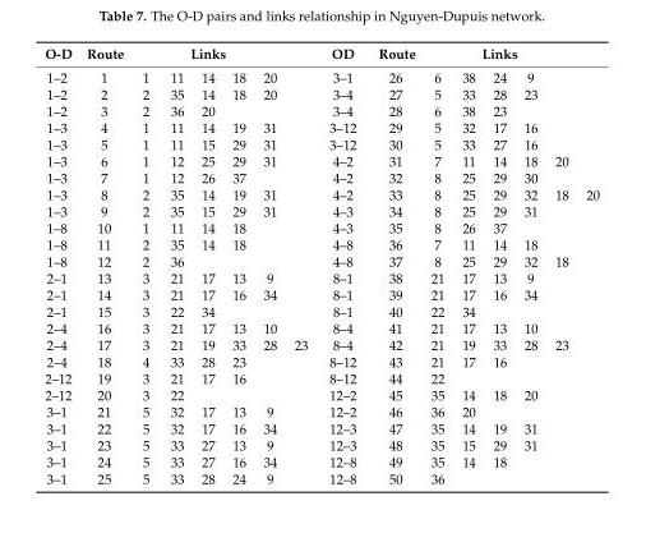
<table><thead><tr><td rowspan="2">O-D 1–2</td><td rowspan="2">Route 1</td><td colspan="5">Links</td><td rowspan="2"></td><td rowspan="2">OD 3–1</td><td rowspan="2">Route 26</td><td colspan="5">Links</td><td rowspan="2"></td></tr><tr><td>1</td><td>11</td><td>14</td><td>18</td><td>20</td><td>6</td><td>38</td><td>24</td><td>9</td><td></td></tr></thead><tbody><tr><td>1–2</td><td>2</td><td>2</td><td>35</td><td>14</td><td>18</td><td>20</td><td></td><td>3–4</td><td>27</td><td>5</td><td>33</td><td>28</td><td>23</td><td></td><td></td></tr><tr><td>1–2</td><td>3</td><td>2</td><td>36</td><td>20</td><td></td><td></td><td></td><td>3–4</td><td>28</td><td>6</td><td>38</td><td>23</td><td></td><td></td><td></td></tr><tr><td>1–3</td><td>4</td><td>1</td><td>11</td><td>14</td><td>19</td><td>31</td><td></td><td>3–12</td><td>29</td><td>5</td><td>32</td><td>17</td><td>16</td><td></td><td></td></tr><tr><td>1–3</td><td>5</td><td>1</td><td>11</td><td>15</td><td>29</td><td>31</td><td></td><td>3–12</td><td>30</td><td>5</td><td>33</td><td>27</td><td>16</td><td></td><td></td></tr><tr><td>1–3</td><td>6</td><td>1</td><td>12</td><td>25</td><td>29</td><td>31</td><td></td><td>4–2</td><td>31</td><td>7</td><td>11</td><td>14</td><td>18</td><td>20</td><td></td></tr><tr><td>1–3</td><td>7</td><td>1</td><td>12</td><td>26</td><td>37</td><td></td><td></td><td>4–2</td><td>32</td><td>8</td><td>25</td><td>29</td><td>30</td><td></td><td></td></tr><tr><td>1–3</td><td>8</td><td>2</td><td>35</td><td>14</td><td>19</td><td>31</td><td></td><td>4–2</td><td>33</td><td>8</td><td>25</td><td>29</td><td>32</td><td>18</td><td>20</td></tr><tr><td>1–3</td><td>9</td><td>2</td><td>35</td><td>15</td><td>29</td><td>31</td><td></td><td>4–3</td><td>34</td><td>8</td><td>25</td><td>29</td><td>31</td><td></td><td></td></tr><tr><td>1–8</td><td>10</td><td>1</td><td>11</td><td>14</td><td>18</td><td></td><td></td><td>4–3</td><td>35</td><td>8</td><td>26</td><td>37</td><td></td><td></td><td></td></tr><tr><td>1–8</td><td>11</td><td>2</td><td>35</td><td>14</td><td>18</td><td></td><td></td><td>4–8</td><td>36</td><td>7</td><td>11</td><td>14</td><td>18</td><td></td><td></td></tr><tr><td>1–8</td><td>12</td><td>2</td><td>36</td><td></td><td></td><td></td><td></td><td>4–8</td><td>37</td><td>8</td><td>25</td><td>29</td><td>32</td><td>18</td><td></td></tr><tr><td>2–1</td><td>13</td><td>3</td><td>21</td><td>17</td><td>13</td><td>9</td><td></td><td>8–1</td><td>38</td><td>21</td><td>17</td><td>13</td><td>9</td><td></td><td></td></tr><tr><td>2–1</td><td>14</td><td>3</td><td>21</td><td>17</td><td>16</td><td>34</td><td></td><td>8–1</td><td>39</td><td>21</td><td>17</td><td>16</td><td>34</td><td></td><td></td></tr><tr><td>2–1</td><td>15</td><td>3</td><td>22</td><td>34</td><td></td><td></td><td></td><td>8–1</td><td>40</td><td>22</td><td>34</td><td></td><td></td><td></td><td></td></tr><tr><td>2–4</td><td>16</td><td>3</td><td>21</td><td>17</td><td>13</td><td>10</td><td></td><td>8–4</td><td>41</td><td>21</td><td>17</td><td>13</td><td>10</td><td></td><td></td></tr><tr><td>2–4</td><td>17</td><td>3</td><td>21</td><td>19</td><td>33</td><td>28</td><td>23</td><td>8–4</td><td>42</td><td>21</td><td>19</td><td>33</td><td>28</td><td>23</td><td></td></tr><tr><td>2–4</td><td>18</td><td>4</td><td>33</td><td>28</td><td>23</td><td></td><td></td><td>8–12</td><td>43</td><td>21</td><td>17</td><td>16</td><td></td><td></td><td></td></tr><tr><td>2–12</td><td>19</td><td>3</td><td>21</td><td>17</td><td>16</td><td></td><td></td><td>8–12</td><td>44</td><td>22</td><td></td><td></td><td></td><td></td><td></td></tr><tr><td>2–12</td><td>20</td><td>3</td><td>22</td><td></td><td></td><td></td><td></td><td>12–2</td><td>45</td><td>35</td><td>14</td><td>18</td><td>20</td><td></td><td></td></tr><tr><td>3–1</td><td>21</td><td>5</td><td>32</td><td>17</td><td>13</td><td>9</td><td></td><td>12–2</td><td>46</td><td>36</td><td>20</td><td></td><td></td><td></td><td></td></tr><tr><td>3–1</td><td>22</td><td>5</td><td>32</td><td>17</td><td>16</td><td>34</td><td></td><td>12–3</td><td>47</td><td>35</td><td>14</td><td>19</td><td>31</td><td></td><td></td></tr><tr><td>3–1</td><td>23</td><td>5</td><td>33</td><td>27</td><td>13</td><td>9</td><td></td><td>12–3</td><td>48</td><td>35</td><td>15</td><td>29</td><td>31</td><td></td><td></td></tr><tr><td>3–1</td><td>24</td><td>5</td><td>33</td><td>27</td><td>16</td><td>34</td><td></td><td>12–8</td><td>49</td><td>35</td><td>14</td><td>18</td><td></td><td></td><td></td></tr><tr><td>3–1</td><td>25</td><td>5</td><td>33</td><td>28</td><td>24</td><td>9</td><td></td><td>12–8</td><td>50</td><td>36</td><td></td><td></td><td></td><td></td><td></td></tr></tbody></table>